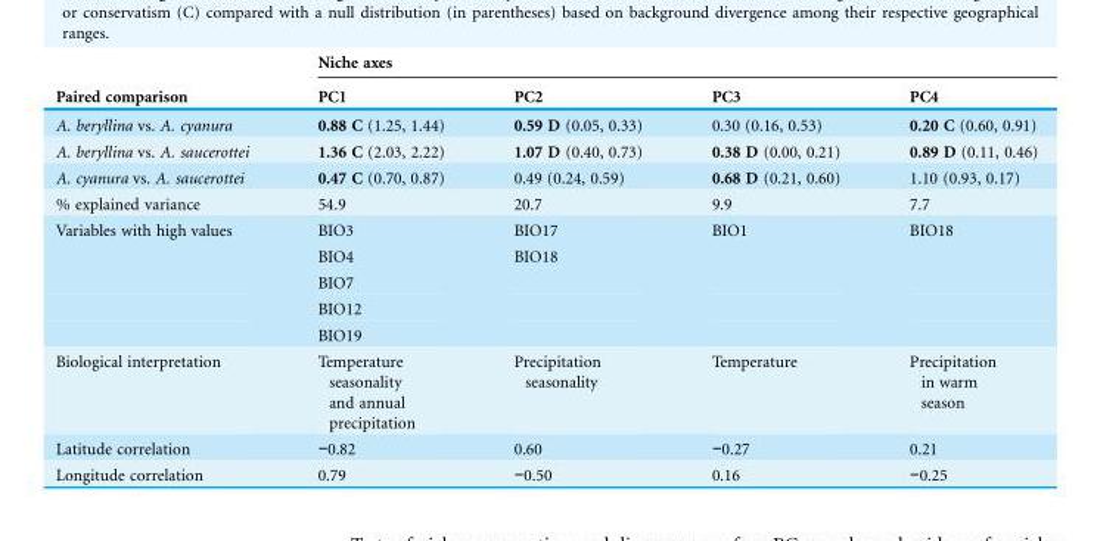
<table><thead><tr><td rowspan="2">Paired comparison</td><td colspan="4">Niche axes</td></tr><tr><td>PC1</td><td>PC2</td><td>PC3</td><td>PC4</td></tr></thead><tbody><tr><td>A. beryllina vs. A. cyanura</td><td>0.88 C (1.25, 1.44)</td><td>0.59 D (0.05, 0.33)</td><td>0.30 (0.16, 0.53)</td><td>0.20 C (0.60, 0.91)</td></tr><tr><td>A. beryllina vs. A. saucerottei</td><td>1.36 C (2.03, 2.22)</td><td>1.07 D (0.40, 0.73)</td><td>0.38 D (0.00, 0.21)</td><td>0.89 D (0.11, 0.46)</td></tr><tr><td>A. cyanura vs. A. saucerottei</td><td>0.47 C (0.70, 0.87)</td><td>0.49 (0.24, 0.59)</td><td>0.68 D (0.21, 0.60)</td><td>1.10 (0.93, 0.17)</td></tr><tr><td>% explained variance</td><td>54.9</td><td>20.7</td><td>9.9</td><td>7.7</td></tr><tr><td rowspan="5">Variables with high values</td><td>BIO3</td><td>BIO17</td><td>BIO1</td><td>BIO18</td></tr><tr><td>BIO4</td><td>BIO18</td><td></td><td></td></tr><tr><td>BIO7</td><td></td><td></td><td></td></tr><tr><td>BIO12</td><td></td><td></td><td></td></tr><tr><td>BIO19</td><td></td><td></td><td></td></tr><tr><td>Biological interpretation</td><td>Temperature seasonality and annual precipitation</td><td>Precipitation seasonality</td><td>Temperature</td><td>Precipitation in warm season</td></tr><tr><td>Latitude correlation</td><td>−0.82</td><td>0.60</td><td>−0.27</td><td>0.21</td></tr><tr><td>Longitude correlation</td><td>0.79</td><td>−0.50</td><td>0.16</td><td>−0.25</td></tr></tbody></table>